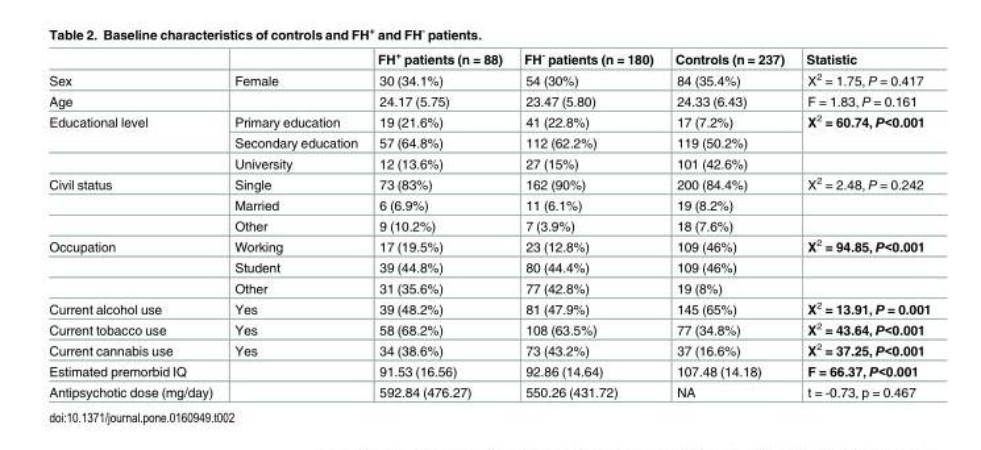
<table><thead><tr><td></td><td></td><td>FH<sup>+</sup> patients (n = 88)</td><td>FH<sup>-</sup> patients (n = 180)</td><td>Controls (n = 237)</td><td>Statistic</td></tr></thead><tbody><tr><td>Sex</td><td>Female</td><td>30 (34.1%)</td><td>54 (30%)</td><td>84 (35.4%)</td><td>X<sup>2</sup> = 1.75, P = 0.417</td></tr><tr><td>Age</td><td></td><td>24.17 (5.75)</td><td>23.47 (5.80)</td><td>24.33 (6.43)</td><td>F = 1.83, P = 0.161</td></tr><tr><td rowspan="3">Educational level</td><td>Primary education</td><td>19 (21.6%)</td><td>41 (22.8%)</td><td>17 (7.2%)</td><td rowspan="2">X<sup>2</sup> = 60.74, P&lt;0.001</td></tr><tr><td>Secondary education</td><td>57 (64.8%)</td><td>112 (62.2%)</td><td>119 (50.2%)</td></tr><tr><td>University</td><td>12 (13.6%)</td><td>27 (15%)</td><td>101 (42.6%)</td><td></td></tr><tr><td rowspan="3">Civil status</td><td>Single</td><td>73 (83%)</td><td>162 (90%)</td><td>200 (84.4%)</td><td>X<sup>2</sup> = 2.48, P = 0.242</td></tr><tr><td>Married</td><td>6 (6.9%)</td><td>11 (6.1%)</td><td>19 (8.2%)</td><td></td></tr><tr><td>Other</td><td>9 (10.2%)</td><td>7 (3.9%)</td><td>18 (7.6%)</td><td></td></tr><tr><td rowspan="3">Occupation</td><td>Working</td><td>17 (19.5%)</td><td>23 (12.8%)</td><td>109 (46%)</td><td>X<sup>2</sup> = 94.85, P&lt;0.001</td></tr><tr><td>Student</td><td>39 (44.8%)</td><td>80 (44.4%)</td><td>109 (46%)</td><td></td></tr><tr><td>Other</td><td>31 (35.6%)</td><td>77 (42.8%)</td><td>19 (8%)</td><td></td></tr><tr><td>Current alcohol use</td><td>Yes</td><td>39 (48.2%)</td><td>81 (47.9%)</td><td>145 (65%)</td><td>X<sup>2</sup> = 13.91, P = 0.001</td></tr><tr><td>Current tobacco use</td><td>Yes</td><td>58 (68.2%)</td><td>108 (63.5%)</td><td>77 (34.8%)</td><td>X<sup>2</sup> = 43.64, P&lt;0.001</td></tr><tr><td>Current cannabis use</td><td>Yes</td><td>34 (38.6%)</td><td>73 (43.2%)</td><td>37 (16.6%)</td><td>X<sup>2</sup> = 37.25, P&lt;0.001</td></tr><tr><td>Estimated premorbid IQ</td><td></td><td>91.53 (16.56)</td><td>92.86 (14.64)</td><td>107.48 (14.18)</td><td>F = 66.37, P&lt;0.001</td></tr><tr><td>Antipsychotic dose (mg/day)</td><td></td><td>592.84 (476.27)</td><td>550.26 (431.72)</td><td>NA</td><td>t = -0.73, p = 0.467</td></tr></tbody></table>